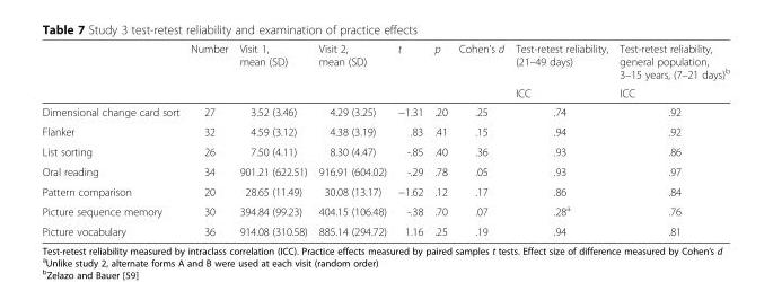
<table><thead><tr><td rowspan="2"></td><td rowspan="2">Number</td><td rowspan="2">Visit 1, mean (SD)</td><td rowspan="2">Visit 2, mean (SD)</td><td rowspan="2">t</td><td rowspan="2">p</td><td rowspan="2">Cohen’s d</td><td rowspan="2">Test-retest reliability, (21–49 days) ICC</td><td rowspan="2">Test-retest reliability, general population, 3–15 years, (7–21 days)<sup>b</sup> ICC</td></tr><tr></tr></thead><tbody><tr><td>Dimensional change card sort</td><td>27</td><td>3.52 (3.46)</td><td>4.29 (3.25)</td><td>−1.31</td><td>.20</td><td>.25</td><td>.74</td><td>.92</td></tr><tr><td>Flanker</td><td>32</td><td>4.59 (3.12)</td><td>4.38 (3.19)</td><td>.83</td><td>.41</td><td>.15</td><td>.94</td><td>.92</td></tr><tr><td>List sorting</td><td>26</td><td>7.50 (4.11)</td><td>8.30 (4.47)</td><td>-.85</td><td>.40</td><td>.36</td><td>.93</td><td>.86</td></tr><tr><td>Oral reading</td><td>34</td><td>901.21 (622.51)</td><td>916.91 (604.02)</td><td>-.29</td><td>.78</td><td>.05</td><td>.93</td><td>.97</td></tr><tr><td>Pattern comparison</td><td>20</td><td>28.65 (11.49)</td><td>30.08 (13.17)</td><td>−1.62</td><td>.12</td><td>.17</td><td>.86</td><td>.84</td></tr><tr><td>Picture sequence memory</td><td>30</td><td>394.84 (99.23)</td><td>404.15 (106.48)</td><td>-.38</td><td>.70</td><td>.07</td><td>.28<sup>a</sup></td><td>.76</td></tr><tr><td>Picture vocabulary</td><td>36</td><td>914.08 (310.58)</td><td>885.14 (294.72)</td><td>1.16</td><td>.25</td><td>.19</td><td>.94</td><td>.81</td></tr></tbody></table>